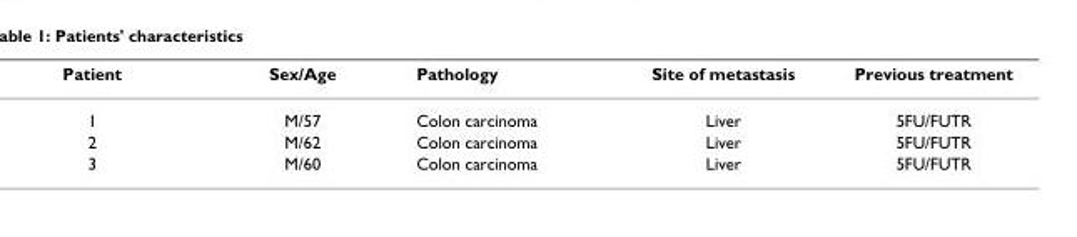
<table><thead><tr><td>Patient</td><td>Sex/Age</td><td>Pathology</td><td>Site of metastasis</td><td>Previous treatment</td></tr></thead><tbody><tr><td>1</td><td>M/57</td><td>Colon carcinoma</td><td>Liver</td><td>5FU/FUTR</td></tr><tr><td>2</td><td>M/62</td><td>Colon carcinoma</td><td>Liver</td><td>5FU/FUTR</td></tr><tr><td>3</td><td>M/60</td><td>Colon carcinoma</td><td>Liver</td><td>5FU/FUTR</td></tr></tbody></table>